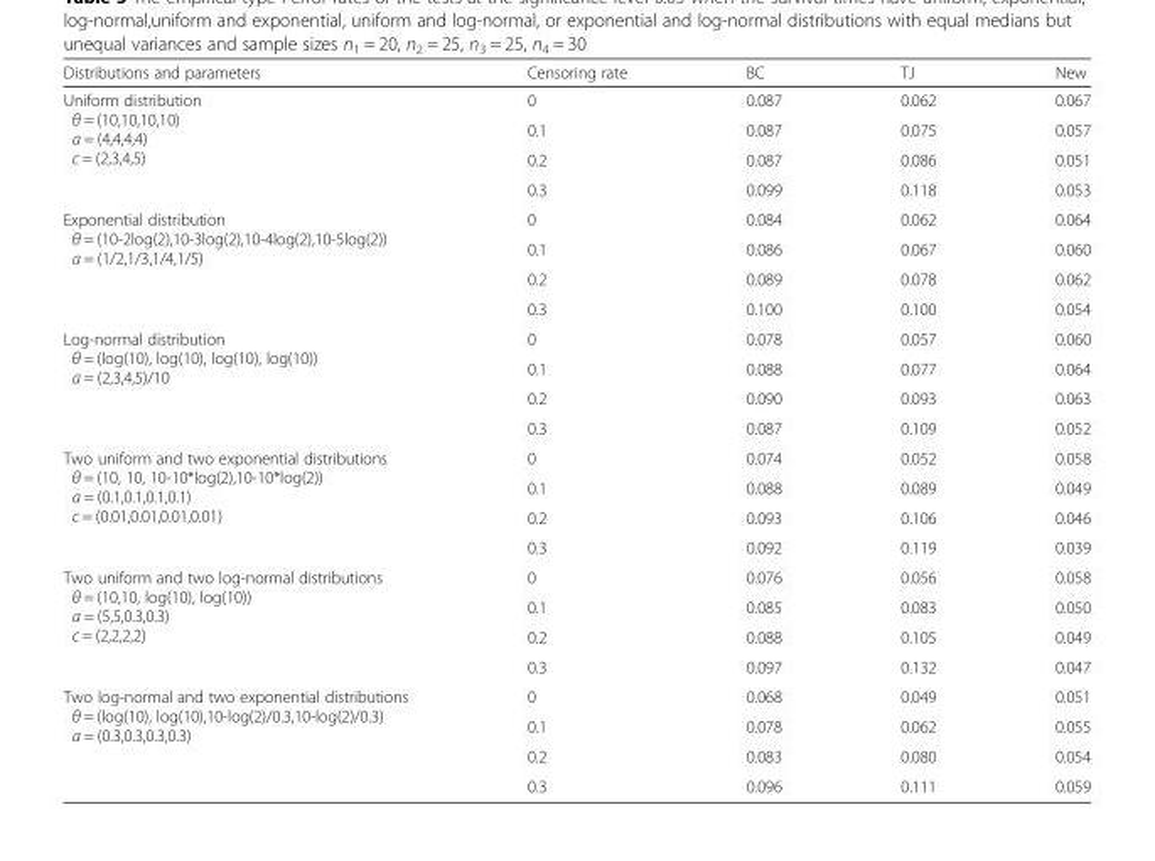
<table><thead><tr><td>Distributions and parameters</td><td>Censoring rate</td><td>BC</td><td>TJ</td><td>New</td></tr></thead><tbody><tr><td rowspan="4">Uniform distribution θ = (10,10,10,10) a = (4,4,4,4) c = (2,3,4,5)</td><td>0</td><td>0.087</td><td>0.062</td><td>0.067</td></tr><tr><td>0.1</td><td>0.087</td><td>0.075</td><td>0.057</td></tr><tr><td>0.2</td><td>0.087</td><td>0.086</td><td>0.051</td></tr><tr><td>0.3</td><td>0.099</td><td>0.118</td><td>0.053</td></tr><tr><td rowspan="4">Exponential distribution θ = (10-2log(2),10-3log(2),10-4log(2),10-5log(2)) a = (1/2,1/3,1/4,1/5)</td><td>0</td><td>0.084</td><td>0.062</td><td>0.064</td></tr><tr><td>0.1</td><td>0.086</td><td>0.067</td><td>0.060</td></tr><tr><td>0.2</td><td>0.089</td><td>0.078</td><td>0.062</td></tr><tr><td>0.3</td><td>0.100</td><td>0.100</td><td>0.054</td></tr><tr><td rowspan="4">Log-normal distribution θ = (log(10), log(10), log(10), log(10)) a = (2,3,4,5)/10</td><td>0</td><td>0.078</td><td>0.057</td><td>0.060</td></tr><tr><td>0.1</td><td>0.088</td><td>0.077</td><td>0.064</td></tr><tr><td>0.2</td><td>0.090</td><td>0.093</td><td>0.063</td></tr><tr><td>0.3</td><td>0.087</td><td>0.109</td><td>0.052</td></tr><tr><td rowspan="4">Two uniform and two exponential distributions θ = (10, 10, 10-10*log(2),10-10*log(2)) a = (0.1,0.1,0.1,0.1) c = (0.01,0.01,0.01,0.01)</td><td>0</td><td>0.074</td><td>0.052</td><td>0.058</td></tr><tr><td>0.1</td><td>0.088</td><td>0.089</td><td>0.049</td></tr><tr><td>0.2</td><td>0.093</td><td>0.106</td><td>0.046</td></tr><tr><td>0.3</td><td>0.092</td><td>0.119</td><td>0.039</td></tr><tr><td rowspan="4">Two uniform and two log-normal distributions θ = (10,10, log(10), log(10)) a = (5,5,0.3,0.3) c = (2,2,2,2)</td><td>0</td><td>0.076</td><td>0.056</td><td>0.058</td></tr><tr><td>0.1</td><td>0.085</td><td>0.083</td><td>0.050</td></tr><tr><td>0.2</td><td>0.088</td><td>0.105</td><td>0.049</td></tr><tr><td>0.3</td><td>0.097</td><td>0.132</td><td>0.047</td></tr><tr><td rowspan="4">Two log-normal and two exponential distributions θ = (log(10), log(10),10-log(2)/0.3,10-log(2)/0.3) a = (0.3,0.3,0.3,0.3)</td><td>0</td><td>0.068</td><td>0.049</td><td>0.051</td></tr><tr><td>0.1</td><td>0.078</td><td>0.062</td><td>0.055</td></tr><tr><td>0.2</td><td>0.083</td><td>0.080</td><td>0.054</td></tr><tr><td>0.3</td><td>0.096</td><td>0.111</td><td>0.059</td></tr></tbody></table>